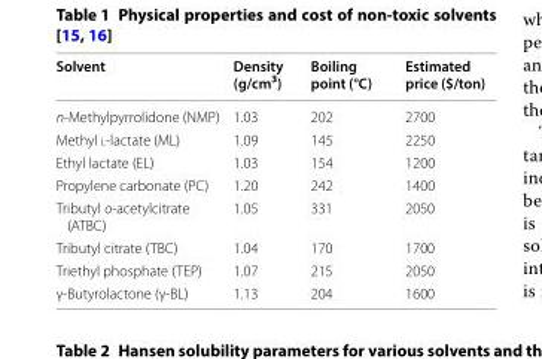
<table><thead><tr><td>Solvent</td><td>Density (g/cm<sup>3</sup>)</td><td>Boiling point (°C)</td><td>Estimated price ($/ton)</td></tr></thead><tbody><tr><td>n‑Methylpyrrolidone (NMP)</td><td>1.03</td><td>202</td><td>2700</td></tr><tr><td>Methyl l‑lactate (ML)</td><td>1.09</td><td>145</td><td>2250</td></tr><tr><td>Ethyl lactate (EL)</td><td>1.03</td><td>154</td><td>1200</td></tr><tr><td>Propylene carbonate (PC)</td><td>1.20</td><td>242</td><td>1400</td></tr><tr><td>Tributyl o‑acetylcitrate (ATBC)</td><td>1.05</td><td>331</td><td>2050</td></tr><tr><td>Tributyl citrate (TBC)</td><td>1.04</td><td>170</td><td>1700</td></tr><tr><td>Triethyl phosphate (TEP)</td><td>1.07</td><td>215</td><td>2050</td></tr><tr><td>γ‑Butyrolactone (γ‑BL)</td><td>1.13</td><td>204</td><td>1600</td></tr></tbody></table>